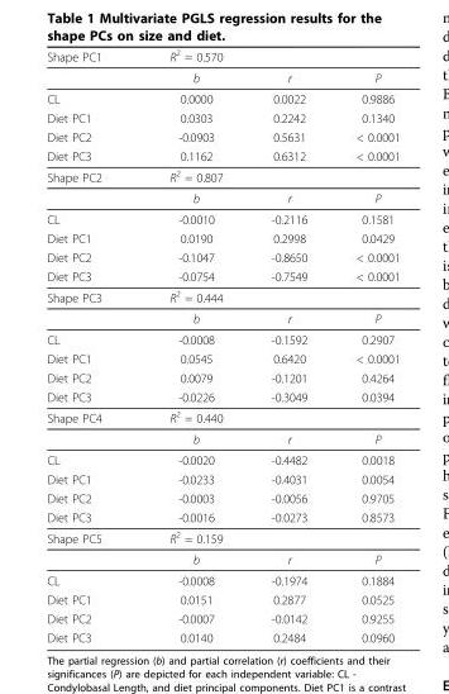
<table><thead><tr><td>Shape PC1</td><td>R<sup>2</sup> = 0.570</td><td></td><td></td></tr></thead><tbody><tr><td></td><td>b</td><td>r</td><td>P</td></tr><tr><td>CL</td><td>0.0000</td><td>0.0022</td><td>0.9886</td></tr><tr><td>Diet PC1</td><td>0.0303</td><td>0.2242</td><td>0.1340</td></tr><tr><td>Diet PC2</td><td>-0.0903</td><td>0.5631</td><td>&lt; 0.0001</td></tr><tr><td>Diet PC3</td><td>0.1162</td><td>0.6312</td><td>&lt; 0.0001</td></tr><tr><td rowspan="2">Shape PC2</td><td>R<sup>2</sup> = 0.807</td><td></td><td></td></tr><tr><td>b</td><td>r</td><td>P</td></tr><tr><td>CL</td><td>-0.0010</td><td>-0.2116</td><td>0.1581</td></tr><tr><td>Diet PC1</td><td>0.0190</td><td>0.2998</td><td>0.0429</td></tr><tr><td>Diet PC2</td><td>-0.1047</td><td>-0.8650</td><td>&lt; 0.0001</td></tr><tr><td>Diet PC3</td><td>-0.0754</td><td>-0.7549</td><td>&lt; 0.0001</td></tr><tr><td rowspan="2">Shape PC3</td><td>R<sup>2</sup> = 0.444</td><td></td><td></td></tr><tr><td>b</td><td>r</td><td>P</td></tr><tr><td>CL</td><td>-0.0008</td><td>-0.1592</td><td>0.2907</td></tr><tr><td>Diet PC1</td><td>0.0545</td><td>0.6420</td><td>&lt; 0.0001</td></tr><tr><td>Diet PC2</td><td>0.0079</td><td>-0.1201</td><td>0.4264</td></tr><tr><td>Diet PC3</td><td>-0.0226</td><td>-0.3049</td><td>0.0394</td></tr><tr><td rowspan="2">Shape PC4</td><td>R<sup>2</sup> = 0.440</td><td></td><td></td></tr><tr><td>b</td><td>r</td><td>P</td></tr><tr><td>CL</td><td>-0.0020</td><td>-0.4482</td><td>0.0018</td></tr><tr><td>Diet PC1</td><td>-0.0233</td><td>-0.4031</td><td>0.0054</td></tr><tr><td>Diet PC2</td><td>-0.0003</td><td>-0.0056</td><td>0.9705</td></tr><tr><td>Diet PC3</td><td>-0.0016</td><td>-0.0273</td><td>0.8573</td></tr><tr><td rowspan="2">Shape PC5</td><td>R<sup>2</sup> = 0.159</td><td></td><td></td></tr><tr><td>b</td><td>r</td><td>P</td></tr><tr><td>CL</td><td>-0.0008</td><td>-0.1974</td><td>0.1884</td></tr><tr><td>Diet PC1</td><td>0.0151</td><td>0.2877</td><td>0.0525</td></tr><tr><td>Diet PC2</td><td>-0.0007</td><td>-0.0142</td><td>0.9255</td></tr><tr><td>Diet PC3</td><td>0.0140</td><td>0.2484</td><td>0.0960</td></tr></tbody></table>